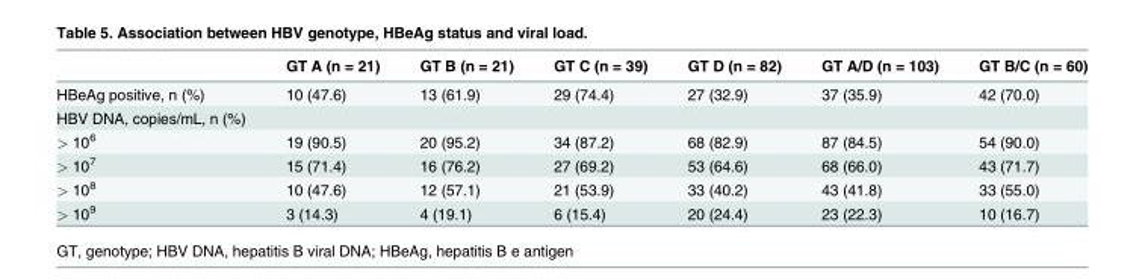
<table><thead><tr><td></td><td>GT A (n = 21)</td><td>GT B (n = 21)</td><td>GT C (n = 39)</td><td>GT D (n = 82)</td><td>GT A/D (n = 103)</td><td>GT B/C (n = 60)</td></tr></thead><tbody><tr><td>HBeAg positive, n (%)</td><td>10 (47.6)</td><td>13 (61.9)</td><td>29 (74.4)</td><td>27 (32.9)</td><td>37 (35.9)</td><td>42 (70.0)</td></tr><tr><td colspan="7">HBV DNA, copies/mL, n (%)</td></tr><tr><td>&gt; 10<sup>6</sup></td><td>19 (90.5)</td><td>20 (95.2)</td><td>34 (87.2)</td><td>68 (82.9)</td><td>87 (84.5)</td><td>54 (90.0)</td></tr><tr><td>&gt; 10<sup>7</sup></td><td>15 (71.4)</td><td>16 (76.2)</td><td>27 (69.2)</td><td>53 (64.6)</td><td>68 (66.0)</td><td>43 (71.7)</td></tr><tr><td>&gt; 10<sup>8</sup></td><td>10 (47.6)</td><td>12 (57.1)</td><td>21 (53.9)</td><td>33 (40.2)</td><td>43 (41.8)</td><td>33 (55.0)</td></tr><tr><td>&gt; 10<sup>9</sup></td><td>3 (14.3)</td><td>4 (19.1)</td><td>6 (15.4)</td><td>20 (24.4)</td><td>23 (22.3)</td><td>10 (16.7)</td></tr></tbody></table>